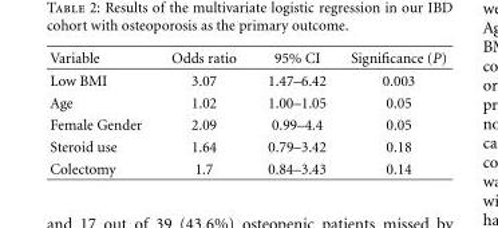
<table><thead><tr><td>Variable</td><td>Odds ratio</td><td>95% CI</td><td>Significance (P)</td></tr></thead><tbody><tr><td>Low BMI</td><td>3.07</td><td>1.47–6.42</td><td>0.003</td></tr><tr><td>Age</td><td>1.02</td><td>1.00–1.05</td><td>0.05</td></tr><tr><td>Female Gender</td><td>2.09</td><td>0.99–4.4</td><td>0.05</td></tr><tr><td>Steroid use</td><td>1.64</td><td>0.79–3.42</td><td>0.18</td></tr><tr><td>Colectomy</td><td>1.7</td><td>0.84–3.43</td><td>0.14</td></tr></tbody></table>